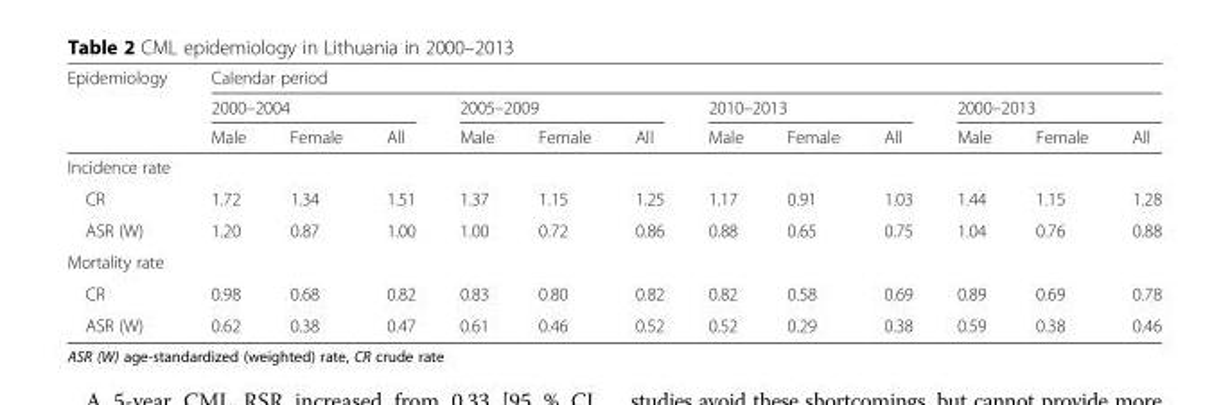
<table><thead><tr><td rowspan="3">Epidemiology</td><td colspan="12">Calendar period</td></tr><tr><td colspan="3">2000–2004</td><td colspan="3">2005–2009</td><td colspan="3">2010–2013</td><td colspan="3">2000–2013</td></tr><tr><td>Male</td><td>Female</td><td>All</td><td>Male</td><td>Female</td><td>All</td><td>Male</td><td>Female</td><td>All</td><td>Male</td><td>Female</td><td>All</td></tr></thead><tbody><tr><td colspan="13">Incidence rate</td></tr><tr><td>CR</td><td>1.72</td><td>1.34</td><td>1.51</td><td>1.37</td><td>1.15</td><td>1.25</td><td>1.17</td><td>0.91</td><td>1.03</td><td>1.44</td><td>1.15</td><td>1.28</td></tr><tr><td>ASR (W)</td><td>1.20</td><td>0.87</td><td>1.00</td><td>1.00</td><td>0.72</td><td>0.86</td><td>0.88</td><td>0.65</td><td>0.75</td><td>1.04</td><td>0.76</td><td>0.88</td></tr><tr><td colspan="13">Mortality rate</td></tr><tr><td>CR</td><td>0.98</td><td>0.68</td><td>0.82</td><td>0.83</td><td>0.80</td><td>0.82</td><td>0.82</td><td>0.58</td><td>0.69</td><td>0.89</td><td>0.69</td><td>0.78</td></tr><tr><td>ASR (W)</td><td>0.62</td><td>0.38</td><td>0.47</td><td>0.61</td><td>0.46</td><td>0.52</td><td>0.52</td><td>0.29</td><td>0.38</td><td>0.59</td><td>0.38</td><td>0.46</td></tr></tbody></table>